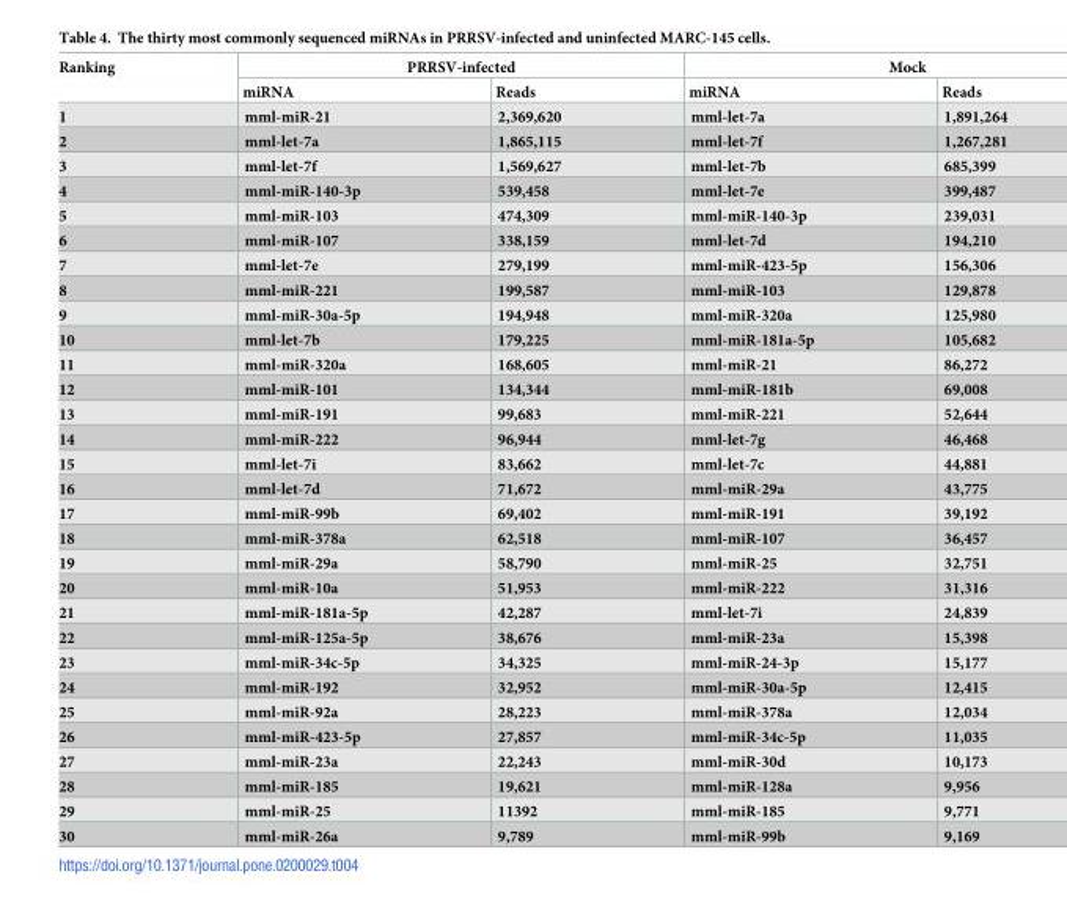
<table><thead><tr><td rowspan="2">Ranking</td><td colspan="2">PRRSV-infected</td><td colspan="2">Mock</td></tr><tr><td>miRNA</td><td>Reads</td><td>miRNA</td><td>Reads</td></tr></thead><tbody><tr><td>1</td><td>mml-miR-21</td><td>2,369,620</td><td>mml-let-7a</td><td>1,891,264</td></tr><tr><td>2</td><td>mml-let-7a</td><td>1,865,115</td><td>mml-let-7f</td><td>1,267,281</td></tr><tr><td>3</td><td>mml-let-7f</td><td>1,569,627</td><td>mml-let-7b</td><td>685,399</td></tr><tr><td>4</td><td>mml-miR-140-3p</td><td>539,458</td><td>mml-let-7e</td><td>399,487</td></tr><tr><td>5</td><td>mml-miR-103</td><td>474,309</td><td>mml-miR-140-3p</td><td>239,031</td></tr><tr><td>6</td><td>mml-miR-107</td><td>338,159</td><td>mml-let-7d</td><td>194,210</td></tr><tr><td>7</td><td>mml-let-7e</td><td>279,199</td><td>mml-miR-423-5p</td><td>156,306</td></tr><tr><td>8</td><td>mml-miR-221</td><td>199,587</td><td>mml-miR-103</td><td>129,878</td></tr><tr><td>9</td><td>mml-miR-30a-5p</td><td>194,948</td><td>mml-miR-320a</td><td>125,980</td></tr><tr><td>10</td><td>mml-let-7b</td><td>179,225</td><td>mml-miR-181a-5p</td><td>105,682</td></tr><tr><td>11</td><td>mml-miR-320a</td><td>168,605</td><td>mml-miR-21</td><td>86,272</td></tr><tr><td>12</td><td>mml-miR-101</td><td>134,344</td><td>mml-miR-181b</td><td>69,008</td></tr><tr><td>13</td><td>mml-miR-191</td><td>99,683</td><td>mml-miR-221</td><td>52,644</td></tr><tr><td>14</td><td>mml-miR-222</td><td>96,944</td><td>mml-let-7g</td><td>46,468</td></tr><tr><td>15</td><td>mml-let-7i</td><td>83,662</td><td>mml-let-7c</td><td>44,881</td></tr><tr><td>16</td><td>mml-let-7d</td><td>71,672</td><td>mml-miR-29a</td><td>43,775</td></tr><tr><td>17</td><td>mml-miR-99b</td><td>69,402</td><td>mml-miR-191</td><td>39,192</td></tr><tr><td>18</td><td>mml-miR-378a</td><td>62,518</td><td>mml-miR-107</td><td>36,457</td></tr><tr><td>19</td><td>mml-miR-29a</td><td>58,790</td><td>mml-miR-25</td><td>32,751</td></tr><tr><td>20</td><td>mml-miR-10a</td><td>51,953</td><td>mml-miR-222</td><td>31,316</td></tr><tr><td>21</td><td>mml-miR-181a-5p</td><td>42,287</td><td>mml-let-7i</td><td>24,839</td></tr><tr><td>22</td><td>mml-miR-125a-5p</td><td>38,676</td><td>mml-miR-23a</td><td>15,398</td></tr><tr><td>23</td><td>mml-miR-34c-5p</td><td>34,325</td><td>mml-miR-24-3p</td><td>15,177</td></tr><tr><td>24</td><td>mml-miR-192</td><td>32,952</td><td>mml-miR-30a-5p</td><td>12,415</td></tr><tr><td>25</td><td>mml-miR-92a</td><td>28,223</td><td>mml-miR-378a</td><td>12,034</td></tr><tr><td>26</td><td>mml-miR-423-5p</td><td>27,857</td><td>mml-miR-34c-5p</td><td>11,035</td></tr><tr><td>27</td><td>mml-miR-23a</td><td>22,243</td><td>mml-miR-30d</td><td>10,173</td></tr><tr><td>28</td><td>mml-miR-185</td><td>19,621</td><td>mml-miR-128a</td><td>9,956</td></tr><tr><td>29</td><td>mml-miR-25</td><td>11392</td><td>mml-miR-185</td><td>9,771</td></tr><tr><td>30</td><td>mml-miR-26a</td><td>9,789</td><td>mml-miR-99b</td><td>9,169</td></tr></tbody></table>